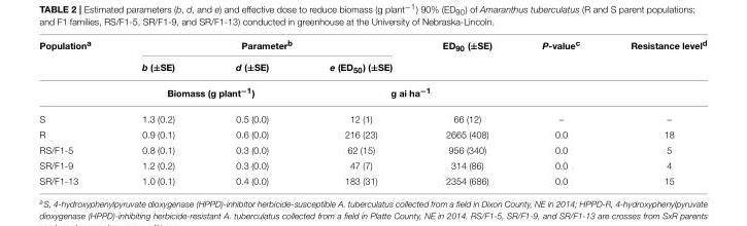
<table><thead><tr><td rowspan="2">Population<sup>a</sup></td><td colspan="3">Parameter<sup>b</sup></td><td rowspan="2">ED<sub>90</sub> (±SE)</td><td rowspan="2">P-value<sup>c</sup></td><td rowspan="2">Resistance level<sup>d</sup></td></tr><tr><td>b (±SE)</td><td>d (±SE)</td><td>e (ED<sub>50</sub>) (±SE)</td></tr></thead><tbody><tr><td></td><td colspan="2">Biomass (g plant<sup>−1</sup>)</td><td colspan="2">g ai ha<sup>−1</sup></td><td></td><td></td></tr><tr><td>S</td><td>1.3 (0.2)</td><td>0.5 (0.0)</td><td>12 (1)</td><td>66 (12)</td><td>–</td><td>–</td></tr><tr><td>R</td><td>0.9 (0.1)</td><td>0.6 (0.0)</td><td>216 (23)</td><td>2665 (408)</td><td>0.0</td><td>18</td></tr><tr><td>RS/F1-5</td><td>0.8 (0.1)</td><td>0.3 (0.0)</td><td>62 (15)</td><td>956 (340)</td><td>0.0</td><td>5</td></tr><tr><td>SR/F1-9</td><td>1.2 (0.2)</td><td>0.3 (0.0)</td><td>47 (7)</td><td>314 (86)</td><td>0.0</td><td>4</td></tr><tr><td>SR/F1-13</td><td>1.0 (0.1)</td><td>0.4 (0.0)</td><td>183 (31)</td><td>2354 (686)</td><td>0.0</td><td>15</td></tr></tbody></table>